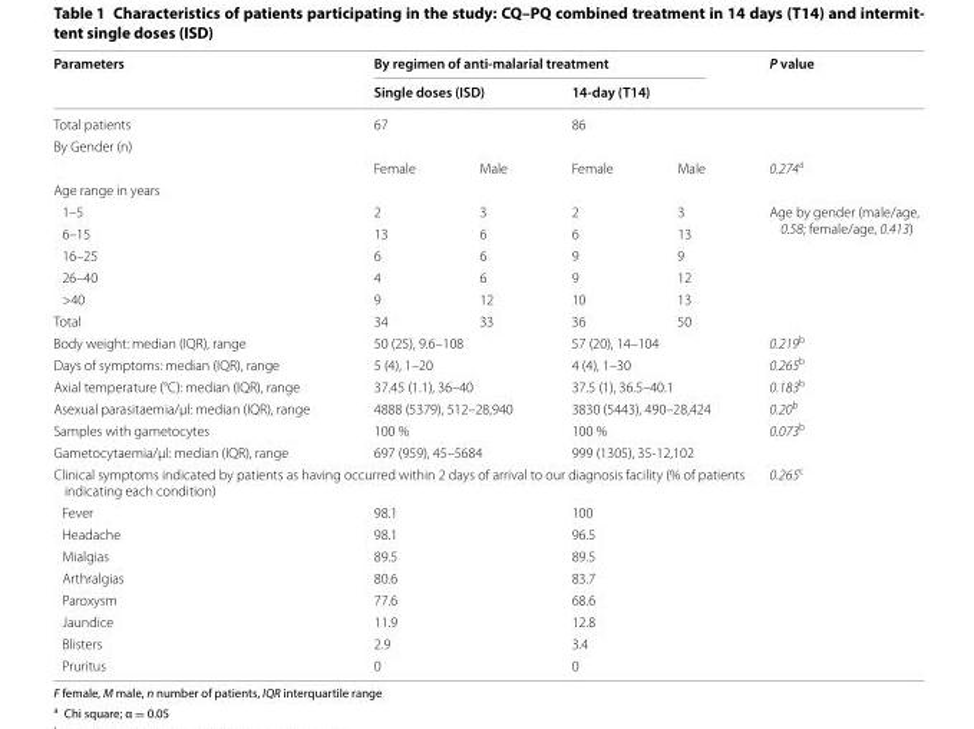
<table><thead><tr><td rowspan="3">Parameters Total patients</td><td colspan="4">By regimen of anti‑malarial treatment</td><td rowspan="3">P value</td></tr><tr><td rowspan="2" colspan="2">Single doses (ISD) 67</td><td rowspan="2" colspan="2">14‑day (T14) 86</td></tr><tr></tr><tr><td colspan="6">By Gender (n)</td></tr><tr><td></td><td>Female</td><td>Male</td><td>Female</td><td>Male</td><td>0.274<sup>a</sup></td></tr></thead><tbody><tr><td colspan="6">Age range in years</td></tr><tr><td>1–5</td><td>2</td><td>3</td><td>2</td><td>3</td><td rowspan="5">Age by gender (male/age, 0.58; female/age, 0.413)</td></tr><tr><td>6–15</td><td>13</td><td>6</td><td>6</td><td>13</td></tr><tr><td>16–25</td><td>6</td><td>6</td><td>9</td><td>9</td></tr><tr><td>26–40</td><td>4</td><td>6</td><td>9</td><td>12</td></tr><tr><td>&gt;40</td><td>9</td><td>12</td><td>10</td><td>13</td></tr><tr><td>Total</td><td>34</td><td>33</td><td>36</td><td>50</td><td></td></tr><tr><td>Body weight: median (IQR), range</td><td colspan="2">50 (25), 9.6–108</td><td colspan="2">57 (20), 14–104</td><td>0.219<sup>b</sup></td></tr><tr><td>Days of symptoms: median (IQR), range</td><td colspan="2">5 (4), 1–20</td><td colspan="2">4 (4), 1–30</td><td>0.265<sup>b</sup></td></tr><tr><td>Axial temperature (°C): median (IQR), range</td><td colspan="2">37.45 (1.1), 36–40</td><td colspan="2">37.5 (1), 36.5–40.1</td><td>0.183<sup>b</sup></td></tr><tr><td>Asexual parasitaemia/µl: median (IQR), range</td><td colspan="2">4888 (5379), 512–28,940</td><td colspan="2">3830 (5443), 490–28,424</td><td>0.20<sup>b</sup></td></tr><tr><td>Samples with gametocytes</td><td colspan="2">100 %</td><td colspan="2">100 %</td><td rowspan="2">0.073<sup>b</sup></td></tr><tr><td>Gametocytaemia/µl: median (IQR), range</td><td colspan="2">697 (959), 45–5684</td><td colspan="2">999 (1305), 35‑12,102</td></tr><tr><td colspan="5">Clinical symptoms indicated by patients as having occurred within 2 days of arrival to our diagnosis facility (% of patients indicating each condition)</td><td>0.265<sup>c</sup></td></tr><tr><td>Fever</td><td colspan="2">98.1</td><td colspan="2">100</td><td></td></tr><tr><td>Headache</td><td colspan="2">98.1</td><td colspan="2">96.5</td><td></td></tr><tr><td>Mialgias</td><td colspan="2">89.5</td><td colspan="2">89.5</td><td></td></tr><tr><td>Arthralgias</td><td colspan="2">80.6</td><td colspan="2">83.7</td><td></td></tr><tr><td>Paroxysm</td><td colspan="2">77.6</td><td colspan="2">68.6</td><td></td></tr><tr><td>Jaundice</td><td colspan="2">11.9</td><td colspan="2">12.8</td><td></td></tr><tr><td>Blisters</td><td colspan="2">2.9</td><td colspan="2">3.4</td><td></td></tr><tr><td>Pruritus</td><td colspan="2">0</td><td colspan="2">0</td><td></td></tr></tbody></table>